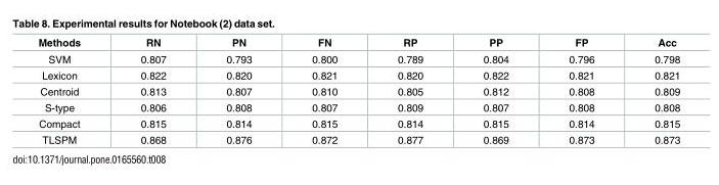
<table><thead><tr><td>Methods</td><td>RN</td><td>PN</td><td>FN</td><td>RP</td><td>PP</td><td>FP</td><td>Acc</td></tr></thead><tbody><tr><td>SVM</td><td>0.807</td><td>0.793</td><td>0.800</td><td>0.789</td><td>0.804</td><td>0.796</td><td>0.798</td></tr><tr><td>Lexicon</td><td>0.822</td><td>0.820</td><td>0.821</td><td>0.820</td><td>0.822</td><td>0.821</td><td>0.821</td></tr><tr><td>Centroid</td><td>0.813</td><td>0.807</td><td>0.810</td><td>0.805</td><td>0.812</td><td>0.808</td><td>0.809</td></tr><tr><td>S-type</td><td>0.806</td><td>0.808</td><td>0.807</td><td>0.809</td><td>0.807</td><td>0.808</td><td>0.808</td></tr><tr><td>Compact</td><td>0.815</td><td>0.814</td><td>0.815</td><td>0.814</td><td>0.815</td><td>0.814</td><td>0.815</td></tr><tr><td>TLSPM</td><td>0.868</td><td>0.876</td><td>0.872</td><td>0.877</td><td>0.869</td><td>0.873</td><td>0.873</td></tr></tbody></table>